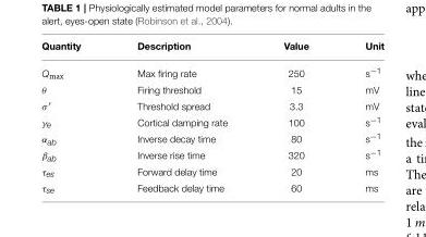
<table><thead><tr><td>Quantity</td><td>Description</td><td>Value</td><td>Unit</td></tr></thead><tbody><tr><td>Q<sub>max</sub></td><td>Max firing rate</td><td>250</td><td>s<sup>−1</sup></td></tr><tr><td>θ</td><td>Firing threshold</td><td>15</td><td>mV</td></tr><tr><td>σ ′</td><td>Threshold spread</td><td>3.3</td><td>mV</td></tr><tr><td>γ<sub>e</sub></td><td>Cortical damping rate</td><td>100</td><td>s<sup>−1</sup></td></tr><tr><td>α<sub>ab</sub></td><td>Inverse decay time</td><td>80</td><td>s<sup>−1</sup></td></tr><tr><td>β<sub>ab</sub></td><td>Inverse rise time</td><td>320</td><td>s<sup>−1</sup></td></tr><tr><td>τ<sub>es</sub></td><td>Forward delay time</td><td>20</td><td>ms</td></tr><tr><td>τ<sub>se</sub></td><td>Feedback delay time</td><td>60</td><td>ms</td></tr></tbody></table>